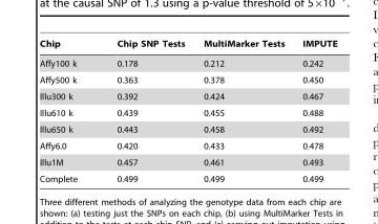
<table><thead><tr><td>Chip</td><td>Chip SNP Tests</td><td>MultiMarker Tests</td><td>IMPUTE</td></tr></thead><tbody><tr><td>Affy100 k</td><td>0.178</td><td>0.212</td><td>0.242</td></tr><tr><td>Affy500 k</td><td>0.363</td><td>0.378</td><td>0.450</td></tr><tr><td>Illu300 k</td><td>0.392</td><td>0.424</td><td>0.467</td></tr><tr><td>Illu610 k</td><td>0.439</td><td>0.455</td><td>0.488</td></tr><tr><td>Illu650 k</td><td>0.443</td><td>0.458</td><td>0.492</td></tr><tr><td>Affy6.0</td><td>0.420</td><td>0.433</td><td>0.478</td></tr><tr><td>Illu1M</td><td>0.457</td><td>0.461</td><td>0.493</td></tr><tr><td>Complete</td><td>0.499</td><td>0.499</td><td>0.499</td></tr></tbody></table>